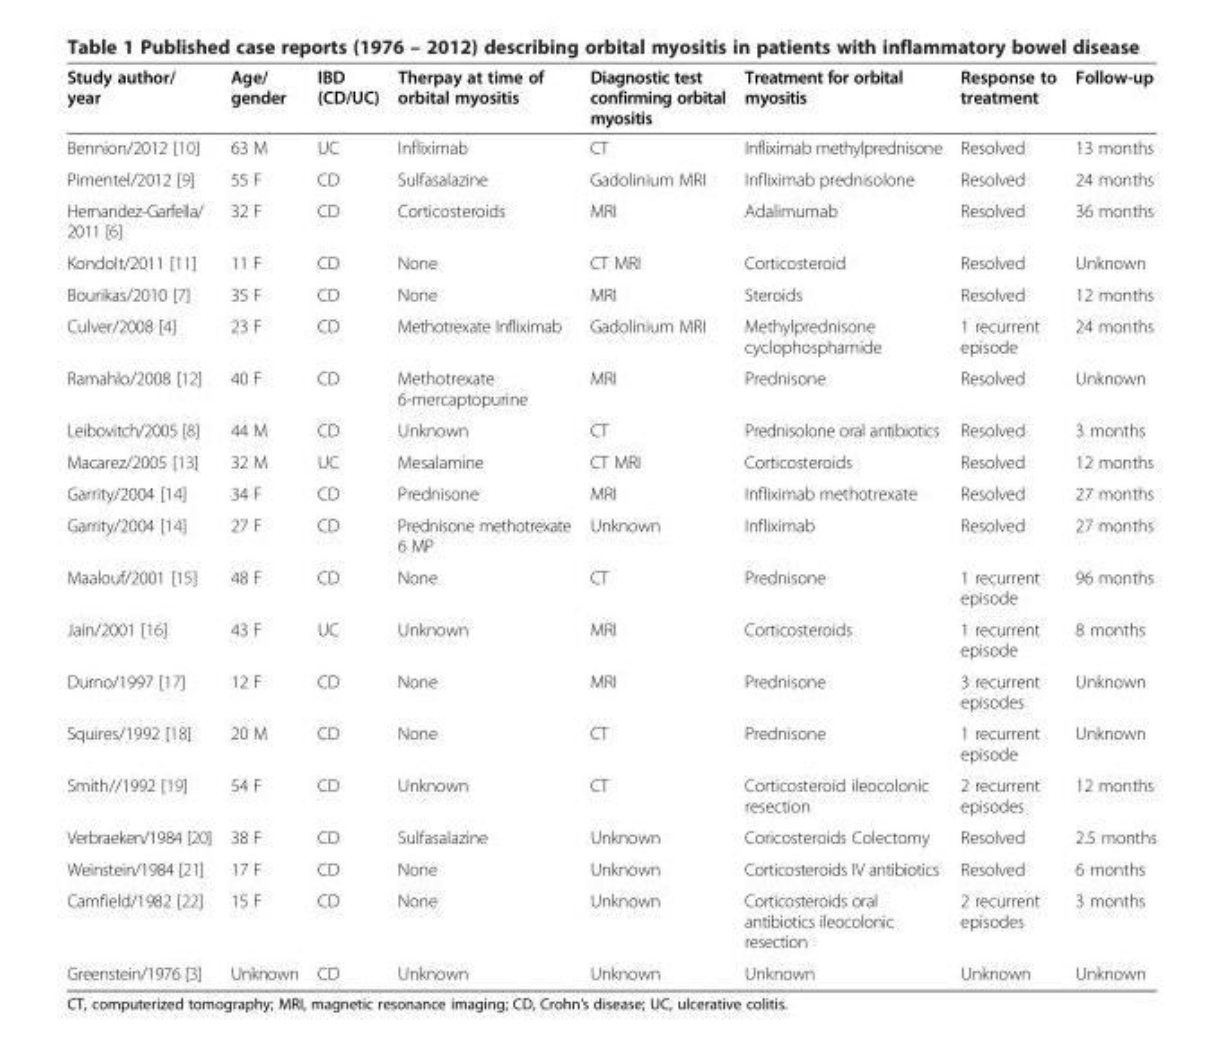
<table><thead><tr><td>Study author/ year</td><td>Age/ gender</td><td>IBD (CD/UC)</td><td>Therpay at time of orbital myositis</td><td>Diagnostic test confirming orbital myositis</td><td>Treatment for orbital myositis</td><td>Response to treatment</td><td>Follow-up</td></tr></thead><tbody><tr><td>Bennion/2012 [10]</td><td>63 M</td><td>UC</td><td>Infliximab</td><td>CT</td><td>Infliximab methylprednisone</td><td>Resolved</td><td>13 months</td></tr><tr><td>Pimentel/2012 [9]</td><td>55 F</td><td>CD</td><td>Sulfasalazine</td><td>Gadolinium MRI</td><td>Infliximab prednisolone</td><td>Resolved</td><td>24 months</td></tr><tr><td>Hernandez-Garfella/ 2011 [6]</td><td>32 F</td><td>CD</td><td>Corticosteroids</td><td>MRI</td><td>Adalimumab</td><td>Resolved</td><td>36 months</td></tr><tr><td>Kondolt/2011 [11]</td><td>11 F</td><td>CD</td><td>None</td><td>CT MRI</td><td>Corticosteroid</td><td>Resolved</td><td>Unknown</td></tr><tr><td>Bourikas/2010 [7]</td><td>35 F</td><td>CD</td><td>None</td><td>MRI</td><td>Steroids</td><td>Resolved</td><td>12 months</td></tr><tr><td>Culver/2008 [4]</td><td>23 F</td><td>CD</td><td>Methotrexate Infliximab</td><td>Gadolinium MRI</td><td>Methylprednisone cyclophosphamide</td><td>1 recurrent episode</td><td>24 months</td></tr><tr><td>Ramahlo/2008 [12]</td><td>40 F</td><td>CD</td><td>Methotrexate 6-mercaptopurine</td><td>MRI</td><td>Prednisone</td><td>Resolved</td><td>Unknown</td></tr><tr><td>Leibovitch/2005 [8]</td><td>44 M</td><td>CD</td><td>Unknown</td><td>CT</td><td>Prednisolone oral antibiotics</td><td>Resolved</td><td>3 months</td></tr><tr><td>Macarez/2005 [13]</td><td>32 M</td><td>UC</td><td>Mesalamine</td><td>CT MRI</td><td>Corticosteroids</td><td>Resolved</td><td>12 months</td></tr><tr><td>Garrity/2004 [14]</td><td>34 F</td><td>CD</td><td>Prednisone</td><td>MRI</td><td>Infliximab methotrexate</td><td>Resolved</td><td>27 months</td></tr><tr><td>Garrity/2004 [14]</td><td>27 F</td><td>CD</td><td>Prednisone methotrexate 6 MP</td><td>Unknown</td><td>Infliximab</td><td>Resolved</td><td>27 months</td></tr><tr><td>Maalouf/2001 [15]</td><td>48 F</td><td>CD</td><td>None</td><td>CT</td><td>Prednisone</td><td>1 recurrent episode</td><td>96 months</td></tr><tr><td>Jain/2001 [16]</td><td>43 F</td><td>UC</td><td>Unknown</td><td>MRI</td><td>Corticosteroids</td><td>1 recurrent episode</td><td>8 months</td></tr><tr><td>Durno/1997 [17]</td><td>12 F</td><td>CD</td><td>None</td><td>MRI</td><td>Prednisone</td><td>3 recurrent episodes</td><td>Unknown</td></tr><tr><td>Squires/1992 [18]</td><td>20 M</td><td>CD</td><td>None</td><td>CT</td><td>Prednisone</td><td>1 recurrent episode</td><td>Unknown</td></tr><tr><td>Smith//1992 [19]</td><td>54 F</td><td>CD</td><td>Unknown</td><td>CT</td><td>Corticosteroid ileocolonic resection</td><td>2 recurrent episodes</td><td>12 months</td></tr><tr><td>Verbraeken/1984 [20]</td><td>38 F</td><td>CD</td><td>Sulfasalazine</td><td>Unknown</td><td>Coricosteroids Colectomy</td><td>Resolved</td><td>2.5 months</td></tr><tr><td>Weinstein/1984 [21]</td><td>17 F</td><td>CD</td><td>None</td><td>Unknown</td><td>Corticosteroids IV antibiotics</td><td>Resolved</td><td>6 months</td></tr><tr><td>Camfield/1982 [22]</td><td>15 F</td><td>CD</td><td>None</td><td>Unknown</td><td>Corticosteroids oral antibiotics ileocolonic resection</td><td>2 recurrent episodes</td><td>3 months</td></tr><tr><td>Greenstein/1976 [3]</td><td>Unknown</td><td>CD</td><td>Unknown</td><td>Unknown</td><td>Unknown</td><td>Unknown</td><td>Unknown</td></tr></tbody></table>